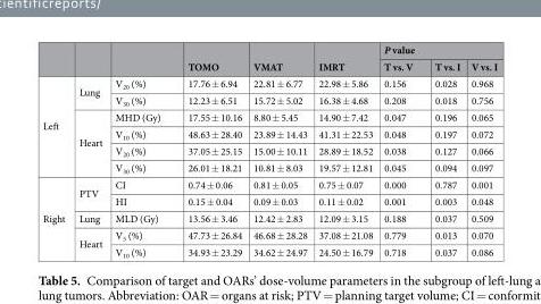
<table><thead><tr><td rowspan="2"></td><td rowspan="2"></td><td rowspan="2"></td><td rowspan="2">TOMO</td><td rowspan="2">VMAT</td><td rowspan="2">IMRT</td><td colspan="3">P value</td></tr><tr><td>T vs. V</td><td>T vs. I</td><td>V vs. I</td></tr></thead><tbody><tr><td rowspan="6">Left</td><td rowspan="2">Lung</td><td>V<sub>20</sub> (%)</td><td>17.76 ± 6.94</td><td>22.81 ± 6.77</td><td>22.98 ± 5.86</td><td>0.156</td><td>0.028</td><td>0.968</td></tr><tr><td>V<sub>30</sub> (%)</td><td>12.23 ± 6.51</td><td>15.72 ± 5.02</td><td>16.38 ± 4.68</td><td>0.208</td><td>0.018</td><td>0.756</td></tr><tr><td rowspan="4">Heart</td><td>MHD (Gy)</td><td>17.55 ± 10.16</td><td>8.80 ± 5.45</td><td>14.90 ± 7.42</td><td>0.047</td><td>0.196</td><td>0.065</td></tr><tr><td>V<sub>10</sub> (%)</td><td>48.63 ± 28.40</td><td>23.89 ± 14.43</td><td>41.31 ± 22.53</td><td>0.048</td><td>0.197</td><td>0.072</td></tr><tr><td>V<sub>20</sub> (%)</td><td>37.05 ± 25.15</td><td>15.00 ± 10.11</td><td>28.89 ± 18.52</td><td>0.038</td><td>0.127</td><td>0.066</td></tr><tr><td>V<sub>30</sub> (%)</td><td>26.01 ± 18.21</td><td>10.81 ± 8.03</td><td>19.57 ± 12.81</td><td>0.045</td><td>0.094</td><td>0.097</td></tr><tr><td rowspan="5">Right</td><td rowspan="2">PTV</td><td>CI</td><td>0.74 ± 0.06</td><td>0.81 ± 0.05</td><td>0.75 ± 0.07</td><td>0.000</td><td>0.787</td><td>0.001</td></tr><tr><td>HI</td><td>0.15 ± 0.04</td><td>0.09 ± 0.03</td><td>0.11 ± 0.02</td><td>0.001</td><td>0.003</td><td>0.048</td></tr><tr><td>Lung</td><td>MLD (Gy)</td><td>13.56 ± 3.46</td><td>12.42 ± 2.83</td><td>12.09 ± 3.15</td><td>0.188</td><td>0.037</td><td>0.509</td></tr><tr><td rowspan="2">Heart</td><td>V<sub>5</sub> (%)</td><td>47.73 ± 26.84</td><td>46.68 ± 28.28</td><td>37.08 ± 21.08</td><td>0.779</td><td>0.013</td><td>0.070</td></tr><tr><td>V<sub>10</sub> (%)</td><td>34.93 ± 23.29</td><td>34.62 ± 24.97</td><td>24.50 ± 16.79</td><td>0.718</td><td>0.037</td><td>0.086</td></tr></tbody></table>